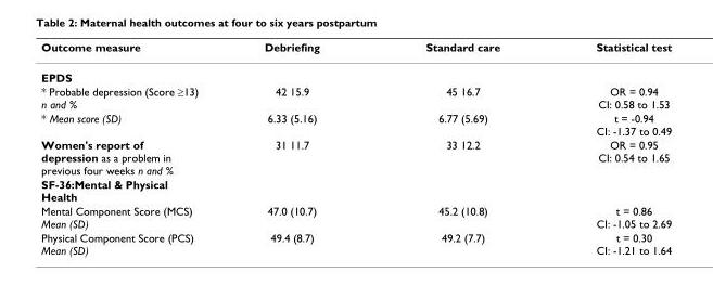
<table><thead><tr><td>Outcome measure</td><td>Debriefing</td><td>Standard care</td><td>Statistical test</td></tr></thead><tbody><tr><td colspan="4">EPDS</td></tr><tr><td>* Probable depression (Score ≥13) n and %</td><td>42 15.9</td><td>45 16.7</td><td>OR = 0.94 CI: 0.58 to 1.53</td></tr><tr><td>* Mean score (SD)</td><td>6.33 (5.16)</td><td>6.77 (5.69)</td><td>t = -0.94 CI: -1.37 to 0.49</td></tr><tr><td>Women&#x27;s report of depression as a problem in previous four weeks n and %</td><td>31 11.7</td><td>33 12.2</td><td>OR = 0.95 CI: 0.54 to 1.65</td></tr><tr><td colspan="4">SF-36:Mental &amp; Physical Health</td></tr><tr><td>Mental Component Score (MCS) Mean (SD)</td><td>47.0 (10.7)</td><td>45.2 (10.8)</td><td>t = 0.86 CI: -1.05 to 2.69</td></tr><tr><td>Physical Component Score (PCS) Mean (SD)</td><td>49.4 (8.7)</td><td>49.2 (7.7)</td><td>t = 0.30 CI: -1.21 to 1.64</td></tr></tbody></table>